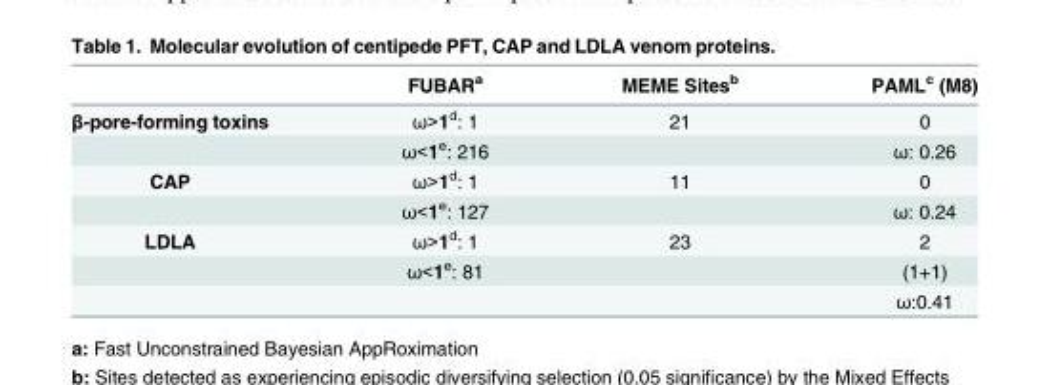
<table><thead><tr><td></td><td>FUBAR<sup>a</sup></td><td>MEME Sites<sup>b</sup></td><td>PAML<sup>c</sup> (M8)</td></tr></thead><tbody><tr><td rowspan="2">β-pore-forming toxins</td><td>ω&gt;1<sup>d</sup>: 1</td><td>21</td><td>0</td></tr><tr><td>ω&lt;1<sup>e</sup>: 216</td><td></td><td>ω: 0.26</td></tr><tr><td rowspan="2">CAP</td><td>ω&gt;1<sup>d</sup>: 1</td><td>11</td><td>0</td></tr><tr><td>ω&lt;1<sup>e</sup>: 127</td><td></td><td>ω: 0.24</td></tr><tr><td rowspan="3">LDLA</td><td>ω&gt;1<sup>d</sup>: 1</td><td>23</td><td>2</td></tr><tr><td>ω&lt;1<sup>e</sup>: 81</td><td></td><td>(1+1)</td></tr><tr><td></td><td></td><td>ω:0.41</td></tr></tbody></table>